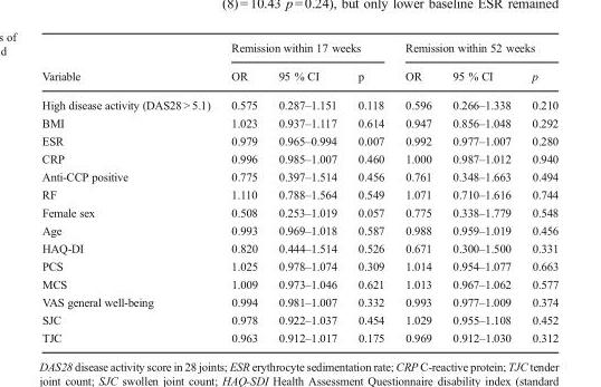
<table><thead><tr><td rowspan="2">Variable</td><td colspan="3">Remission within 17 weeks</td><td colspan="3">Remission within 52 weeks</td></tr><tr><td>OR</td><td>95 % CI</td><td>p</td><td>OR</td><td>95 % CI</td><td>p</td></tr></thead><tbody><tr><td>High disease activity (DAS28 &gt; 5.1)</td><td>0.575</td><td>0.287–1.151</td><td>0.118</td><td>0.596</td><td>0.266–1.338</td><td>0.210</td></tr><tr><td>BMI</td><td>1.023</td><td>0.937–1.117</td><td>0.614</td><td>0.947</td><td>0.856–1.048</td><td>0.292</td></tr><tr><td>ESR</td><td>0.979</td><td>0.965–0.994</td><td>0.007</td><td>0.992</td><td>0.977–1.007</td><td>0.280</td></tr><tr><td>CRP</td><td>0.996</td><td>0.985–1.007</td><td>0.460</td><td>1.000</td><td>0.987–1.012</td><td>0.940</td></tr><tr><td>Anti-CCP positive</td><td>0.775</td><td>0.397–1.514</td><td>0.456</td><td>0.761</td><td>0.348–1.663</td><td>0.494</td></tr><tr><td>RF</td><td>1.110</td><td>0.788–1.564</td><td>0.549</td><td>1.071</td><td>0.710–1.616</td><td>0.744</td></tr><tr><td>Female sex</td><td>0.508</td><td>0.253–1.019</td><td>0.057</td><td>0.775</td><td>0.338–1.779</td><td>0.548</td></tr><tr><td>Age</td><td>0.993</td><td>0.969–1.018</td><td>0.587</td><td>0.988</td><td>0.959–1.019</td><td>0.456</td></tr><tr><td>HAQ-DI</td><td>0.820</td><td>0.444–1.514</td><td>0.526</td><td>0.671</td><td>0.300–1.500</td><td>0.331</td></tr><tr><td>PCS</td><td>1.025</td><td>0.978–1.074</td><td>0.309</td><td>1.014</td><td>0.954–1.077</td><td>0.663</td></tr><tr><td>MCS</td><td>1.009</td><td>0.973–1.046</td><td>0.621</td><td>1.013</td><td>0.967–1.062</td><td>0.577</td></tr><tr><td>VAS general well-being</td><td>0.994</td><td>0.981–1.007</td><td>0.332</td><td>0.993</td><td>0.977–1.009</td><td>0.374</td></tr><tr><td>SJC</td><td>0.978</td><td>0.922–1.037</td><td>0.454</td><td>1.029</td><td>0.955–1.108</td><td>0.452</td></tr><tr><td>TJC</td><td>0.963</td><td>0.912–1.017</td><td>0.175</td><td>0.969</td><td>0.912–1.030</td><td>0.312</td></tr></tbody></table>